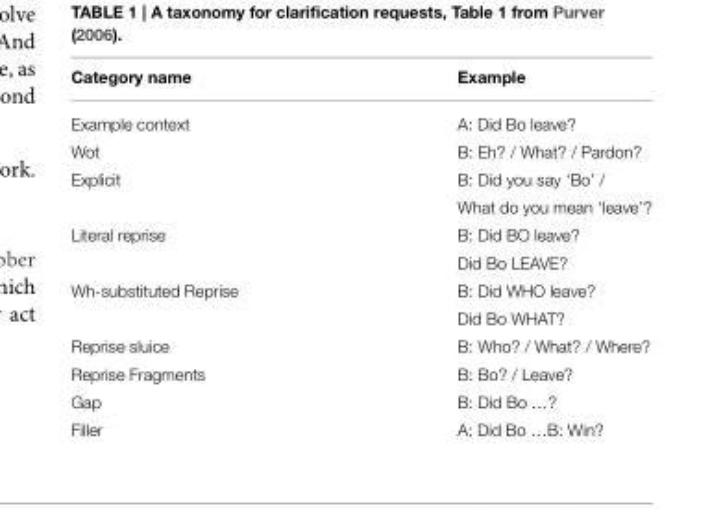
<table><thead><tr><td>Category name</td><td>Example</td></tr></thead><tbody><tr><td>Example context</td><td>A: Did Bo leave?</td></tr><tr><td>Wot</td><td>B: Eh? / What? / Pardon?</td></tr><tr><td rowspan="2">Explicit</td><td>B: Did you say ‘Bo’ /</td></tr><tr><td>What do you mean ‘leave’?</td></tr><tr><td rowspan="2">Literal reprise</td><td>B: Did BO leave?</td></tr><tr><td>Did Bo LEAVE?</td></tr><tr><td rowspan="2">Wh-substituted Reprise</td><td>B: Did WHO leave?</td></tr><tr><td>Did Bo WHAT?</td></tr><tr><td>Reprise sluice</td><td>B: Who? / What? / Where?</td></tr><tr><td>Reprise Fragments</td><td>B: Bo? / Leave?</td></tr><tr><td>Gap</td><td>B: Did Bo …?</td></tr><tr><td>Filler</td><td>A: Did Bo …B: Win?</td></tr></tbody></table>